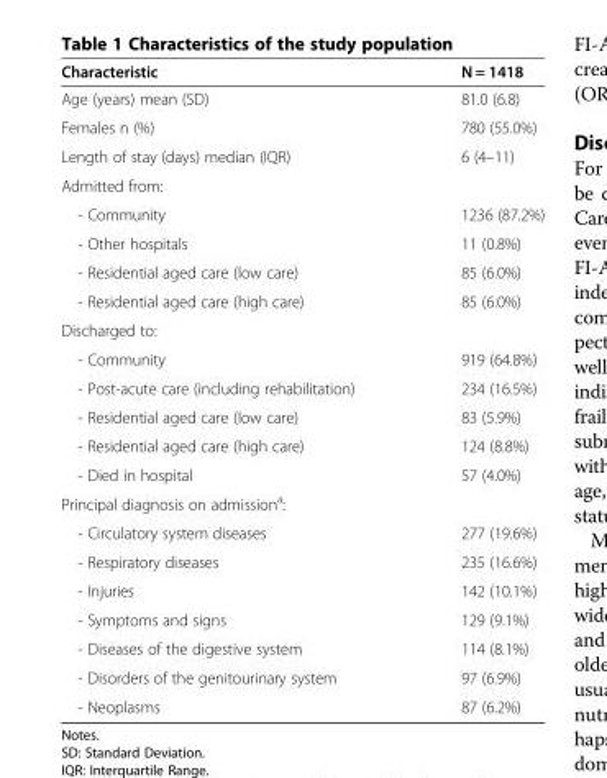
<table><thead><tr><td>Characteristic</td><td>N = 1418</td></tr></thead><tbody><tr><td>Age (years) mean (SD)</td><td>81.0 (6.8)</td></tr><tr><td>Females n (%)</td><td>780 (55.0%)</td></tr><tr><td>Length of stay (days) median (IQR)</td><td>6 (4–11)</td></tr><tr><td colspan="2">Admitted from:</td></tr><tr><td>- Community</td><td>1236 (87.2%)</td></tr><tr><td>- Other hospitals</td><td>11 (0.8%)</td></tr><tr><td>- Residential aged care (low care)</td><td>85 (6.0%)</td></tr><tr><td>- Residential aged care (high care)</td><td>85 (6.0%)</td></tr><tr><td colspan="2">Discharged to:</td></tr><tr><td>- Community</td><td>919 (64.8%)</td></tr><tr><td>- Post-acute care (including rehabilitation)</td><td>234 (16.5%)</td></tr><tr><td>- Residential aged care (low care)</td><td>83 (5.9%)</td></tr><tr><td>- Residential aged care (high care)</td><td>124 (8.8%)</td></tr><tr><td>- Died in hospital</td><td>57 (4.0%)</td></tr><tr><td colspan="2">Principal diagnosis on admission<sup>a</sup>:</td></tr><tr><td>- Circulatory system diseases</td><td>277 (19.6%)</td></tr><tr><td>- Respiratory diseases</td><td>235 (16.6%)</td></tr><tr><td>- Injuries</td><td>142 (10.1%)</td></tr><tr><td>- Symptoms and signs</td><td>129 (9.1%)</td></tr><tr><td>- Diseases of the digestive system</td><td>114 (8.1%)</td></tr><tr><td>- Disorders of the genitourinary system</td><td>97 (6.9%)</td></tr><tr><td>- Neoplasms</td><td>87 (6.2%)</td></tr></tbody></table>